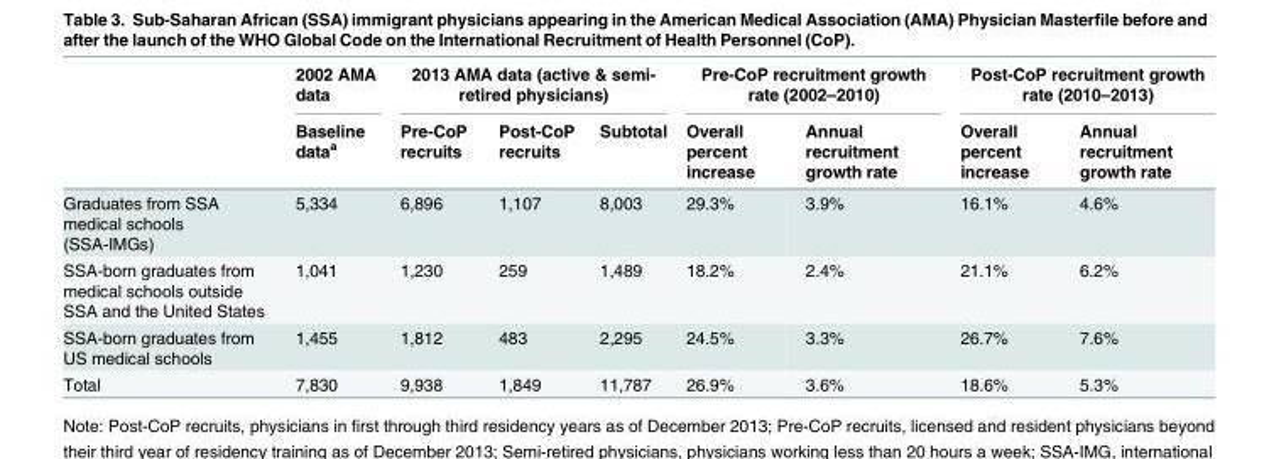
<table><thead><tr><td rowspan="2"></td><td rowspan="2">2002 AMA data Baseline data<sup>a</sup></td><td colspan="3">2013 AMA data (active &amp; semi- retired physicians)</td><td colspan="2">Pre-CoP recruitment growth rate (2002–2010)</td><td colspan="2">Post-CoP recruitment growth rate (2010–2013)</td></tr><tr><td>Pre-CoP recruits</td><td>Post-CoP recruits</td><td>Subtotal</td><td>Overall percent increase</td><td>Annual recruitment growth rate</td><td>Overall percent increase</td><td>Annual recruitment growth rate</td></tr></thead><tbody><tr><td>Graduates from SSA medical schools (SSA-IMGs)</td><td>5,334</td><td>6,896</td><td>1,107</td><td>8,003</td><td>29.3%</td><td>3.9%</td><td>16.1%</td><td>4.6%</td></tr><tr><td>SSA-born graduates from medical schools outside SSA and the United States</td><td>1,041</td><td>1,230</td><td>259</td><td>1,489</td><td>18.2%</td><td>2.4%</td><td>21.1%</td><td>6.2%</td></tr><tr><td>SSA-born graduates from US medical schools</td><td>1,455</td><td>1,812</td><td>483</td><td>2,295</td><td>24.5%</td><td>3.3%</td><td>26.7%</td><td>7.6%</td></tr><tr><td>Total</td><td>7,830</td><td>9,938</td><td>1,849</td><td>11,787</td><td>26.9%</td><td>3.6%</td><td>18.6%</td><td>5.3%</td></tr></tbody></table>